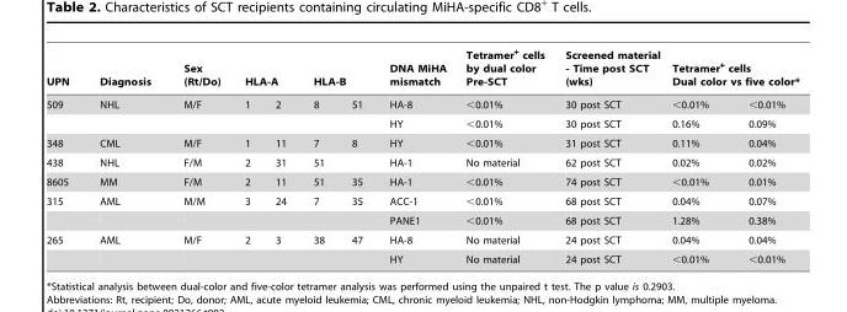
<table><thead><tr><td rowspan="2">UPN 509</td><td rowspan="2">Diagnosis NHL</td><td rowspan="2">Sex (Rt/Do) M/F</td><td colspan="2">HLA-A</td><td colspan="2">HLA-B</td><td rowspan="2">DNA MiHA mismatch HA-8</td><td rowspan="2">Tetramer<sup>+</sup> cells by dual color Pre-SCT &lt;0.01%</td><td rowspan="2">Screened material - Time post SCT (wks) 30 post SCT</td><td colspan="2">Tetramer<sup>+</sup> cells Dual color vs five color*</td></tr><tr><td>1</td><td>2</td><td>8</td><td>51</td><td>&lt;0.01%</td><td>&lt;0.01%</td></tr></thead><tbody><tr><td></td><td></td><td></td><td></td><td></td><td></td><td></td><td>HY</td><td>&lt;0.01%</td><td>30 post SCT</td><td>0.16%</td><td>0.09%</td></tr><tr><td>348</td><td>CML</td><td>M/F</td><td>1</td><td>11</td><td>7</td><td>8</td><td>HY</td><td>&lt;0.01%</td><td>31 post SCT</td><td>0.11%</td><td>0.04%</td></tr><tr><td>438</td><td>NHL</td><td>F/M</td><td>2</td><td>31</td><td>51</td><td></td><td>HA-1</td><td>No material</td><td>62 post SCT</td><td>0.02%</td><td>0.02%</td></tr><tr><td>8605</td><td>MM</td><td>F/M</td><td>2</td><td>11</td><td>51</td><td>35</td><td>HA-1</td><td>&lt;0.01%</td><td>74 post SCT</td><td>&lt;0.01%</td><td>0.01%</td></tr><tr><td rowspan="2">315</td><td>AML</td><td>M/M</td><td>3</td><td>24</td><td>7</td><td>35</td><td>ACC-1</td><td>&lt;0.01%</td><td>68 post SCT</td><td>0.04%</td><td>0.07%</td></tr><tr><td></td><td></td><td></td><td></td><td></td><td></td><td>PANE1</td><td>&lt;0.01%</td><td>68 post SCT</td><td>1.28%</td><td>0.38%</td></tr><tr><td rowspan="2">265</td><td>AML</td><td>M/F</td><td>2</td><td>3</td><td>38</td><td>47</td><td>HA-8</td><td>No material</td><td>24 post SCT</td><td>0.04%</td><td>0.04%</td></tr><tr><td></td><td></td><td></td><td></td><td></td><td></td><td>HY</td><td>No material</td><td>24 post SCT</td><td>&lt;0.01%</td><td>&lt;0.01%</td></tr></tbody></table>